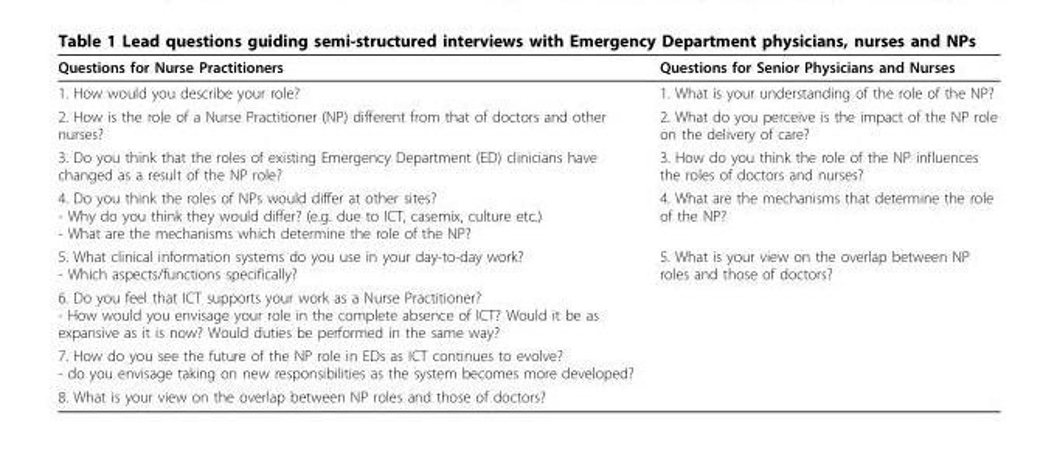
<table><thead><tr><td>Questions for Nurse Practitioners</td><td>Questions for Senior Physicians and Nurses</td></tr></thead><tbody><tr><td>1. How would you describe your role?</td><td>1. What is your understanding of the role of the NP?</td></tr><tr><td>2. How is the role of a Nurse Practitioner (NP) different from that of doctors and other nurses?</td><td>2. What do you perceive is the impact of the NP role on the delivery of care?</td></tr><tr><td>3. Do you think that the roles of existing Emergency Department (ED) clinicians have changed as a result of the NP role?</td><td>3. How do you think the role of the NP influences the roles of doctors and nurses?</td></tr><tr><td>4. Do you think the roles of NPs would differ at other sites? - Why do you think they would differ? (e.g. due to ICT, casemix, culture etc.) - What are the mechanisms which determine the role of the NP?</td><td>4. What are the mechanisms that determine the role of the NP?</td></tr><tr><td>5. What clinical information systems do you use in your day-to-day work? - Which aspects/functions specifically?</td><td>5. What is your view on the overlap between NP roles and those of doctors?</td></tr><tr><td colspan="2">6. Do you feel that ICT supports your work as a Nurse Practitioner? - How would you envisage your role in the complete absence of ICT? Would it be as expansive as it is now? Would duties be performed in the same way?</td></tr><tr><td colspan="2">7. How do you see the future of the NP role in EDs as ICT continues to evolve? - do you envisage taking on new responsibilities as the system becomes more developed?</td></tr><tr><td>8. What is your view on the overlap between NP roles and those of doctors?</td><td></td></tr></tbody></table>